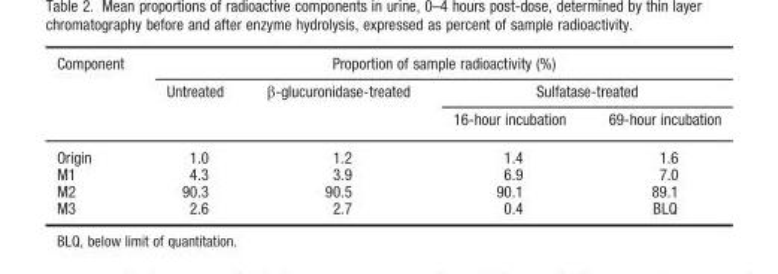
<table><thead><tr><td rowspan="3">Component</td><td colspan="4">Proportion of sample radioactivity (%)</td></tr><tr><td rowspan="2">Untreated</td><td rowspan="2">β-glucuronidase-treated</td><td colspan="2">Sulfatase-treated</td></tr><tr><td>16-hour incubation</td><td>69-hour incubation</td></tr></thead><tbody><tr><td>Origin</td><td>1.0</td><td>1.2</td><td>1.4</td><td>1.6</td></tr><tr><td>M1</td><td>4.3</td><td>3.9</td><td>6.9</td><td>7.0</td></tr><tr><td>M2</td><td>90.3</td><td>90.5</td><td>90.1</td><td>89.1</td></tr><tr><td>M3</td><td>2.6</td><td>2.7</td><td>0.4</td><td>BLQ</td></tr></tbody></table>